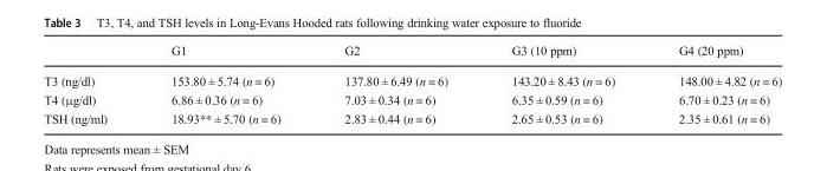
<table><thead><tr><td></td><td>G1</td><td>G2</td><td>G3 (10 ppm)</td><td>G4 (20 ppm)</td></tr></thead><tbody><tr><td>T3 (ng/dl)</td><td>153.80 ± 5.74 (n = 6)</td><td>137.80 ± 6.49 (n = 6)</td><td>143.20 ± 8.43 (n = 6)</td><td>148.00 ± 4.82 (n = 6)</td></tr><tr><td>T4 (μg/dl)</td><td>6.86 ± 0.36 (n = 6)</td><td>7.03 ± 0.34 (n = 6)</td><td>6.35 ± 0.59 (n = 6)</td><td>6.70 ± 0.23 (n = 6)</td></tr><tr><td>TSH (ng/ml)</td><td>18.93** ± 5.70 (n = 6)</td><td>2.83 ± 0.44 (n = 6)</td><td>2.65 ± 0.53 (n = 6)</td><td>2.35 ± 0.61 (n = 6)</td></tr></tbody></table>